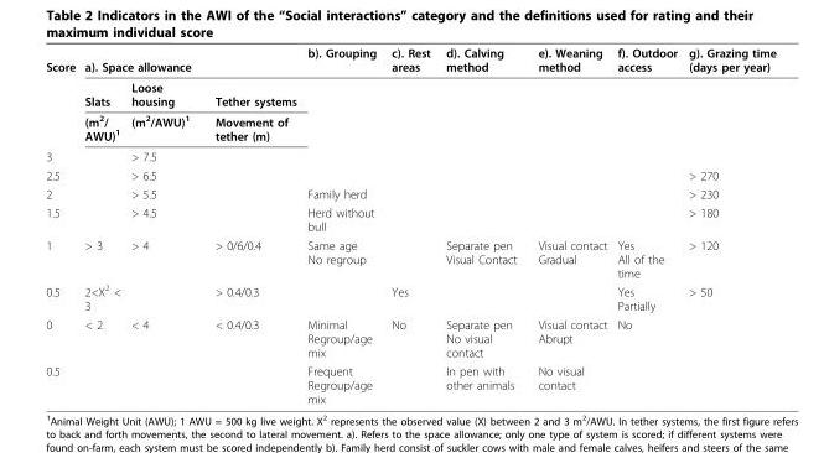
<table><tbody><tr><td rowspan="3">Score</td><td colspan="3">a). Space allowance</td><td>b). Grouping</td><td>c). Rest areas</td><td>d). Calving method</td><td>e). Weaning method</td><td>f). Outdoor access</td><td>g). Grazing time (days per year)</td></tr><tr><td>Slats</td><td>Loose housing</td><td>Tether systems</td><td></td><td></td><td></td><td></td><td></td><td></td></tr><tr><td>(m<sup>2</sup>/ AWU)<sup>1</sup></td><td>(m<sup>2</sup>/AWU)<sup>1</sup></td><td>Movement of tether (m)</td><td></td><td></td><td></td><td></td><td></td><td></td></tr><tr><td>3</td><td></td><td>&gt; 7.5</td><td></td><td></td><td></td><td></td><td></td><td></td><td></td></tr><tr><td>2.5</td><td></td><td>&gt; 6.5</td><td></td><td></td><td></td><td></td><td></td><td></td><td>&gt; 270</td></tr><tr><td>2</td><td></td><td>&gt; 5.5</td><td></td><td>Family herd</td><td></td><td></td><td></td><td></td><td>&gt; 230</td></tr><tr><td>1.5</td><td></td><td>&gt; 4.5</td><td></td><td>Herd without bull</td><td></td><td></td><td></td><td></td><td>&gt; 180</td></tr><tr><td>1</td><td>&gt; 3</td><td>&gt; 4</td><td>&gt; 0/6/0.4</td><td>Same age No regroup</td><td></td><td>Separate pen Visual Contact</td><td>Visual contact Gradual</td><td>Yes All of the time</td><td>&gt; 120</td></tr><tr><td>0.5</td><td>2&lt;X<sup>2</sup> &lt; 3</td><td></td><td>&gt; 0.4/0.3</td><td></td><td>Yes</td><td></td><td></td><td>Yes Partially</td><td>&gt; 50</td></tr><tr><td>0</td><td>&lt; 2</td><td>&lt; 4</td><td>&lt; 0.4/0.3</td><td>Minimal Regroup/age mix</td><td>No</td><td>Separate pen No visual contact</td><td>Visual contact Abrupt</td><td>No</td><td></td></tr><tr><td>0.5</td><td></td><td></td><td></td><td>Frequent Regroup/age mix</td><td></td><td>In pen with other animals</td><td>No visual contact</td><td></td><td></td></tr></tbody></table>